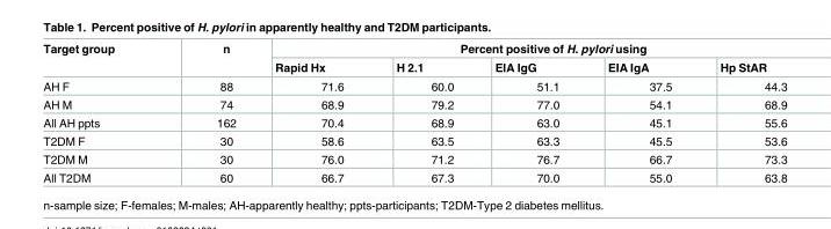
<table><thead><tr><td rowspan="2">Target group</td><td rowspan="2">n</td><td colspan="5">Percent positive of H. pylori using</td></tr><tr><td>Rapid Hx</td><td>H 2.1</td><td>EIA IgG</td><td>EIA IgA</td><td>Hp StAR</td></tr></thead><tbody><tr><td>AH F</td><td>88</td><td>71.6</td><td>60.0</td><td>51.1</td><td>37.5</td><td>44.3</td></tr><tr><td>AH M</td><td>74</td><td>68.9</td><td>79.2</td><td>77.0</td><td>54.1</td><td>68.9</td></tr><tr><td>All AH ppts</td><td>162</td><td>70.4</td><td>68.9</td><td>63.0</td><td>45.1</td><td>55.6</td></tr><tr><td>T2DM F</td><td>30</td><td>58.6</td><td>63.5</td><td>63.3</td><td>45.5</td><td>53.6</td></tr><tr><td>T2DM M</td><td>30</td><td>76.0</td><td>71.2</td><td>76.7</td><td>66.7</td><td>73.3</td></tr><tr><td>All T2DM</td><td>60</td><td>66.7</td><td>67.3</td><td>70.0</td><td>55.0</td><td>63.8</td></tr></tbody></table>